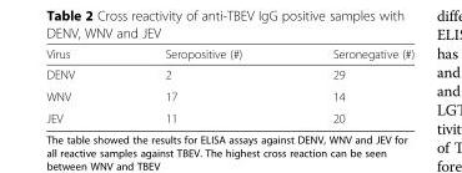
<table><thead><tr><td>Virus</td><td>Seropositive (#)</td><td>Seronegative (#)</td></tr></thead><tbody><tr><td>DENV</td><td>2</td><td>29</td></tr><tr><td>WNV</td><td>17</td><td>14</td></tr><tr><td>JEV</td><td>11</td><td>20</td></tr></tbody></table>